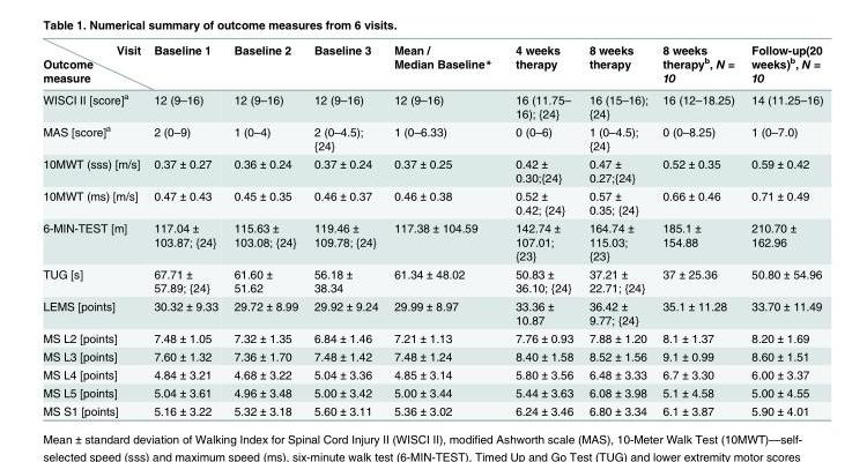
<table><thead><tr><td rowspan="2">Visit Outcome measure</td><td rowspan="2">Baseline 1</td><td rowspan="2">Baseline 2</td><td rowspan="2">Baseline 3</td><td rowspan="2">Mean / Median Baseline*</td><td rowspan="2">4 weeks therapy</td><td rowspan="2">8 weeks therapy</td><td rowspan="2">8 weeks therapy<sup>b</sup>, N = 10</td><td rowspan="2">Follow-up(20 weeks)<sup>b</sup>, N = 10</td></tr><tr></tr></thead><tbody><tr><td>WISCI II [score]<sup>a</sup></td><td>12 (9–16)</td><td>12 (9–16)</td><td>12 (9–16)</td><td>12 (9–16)</td><td>16 (11.75– 16); {24}</td><td>16 (15–16); {24}</td><td>16 (12–18.25)</td><td>14 (11.25–16)</td></tr><tr><td>MAS [score]<sup>a</sup></td><td>2 (0–9)</td><td>1 (0–4)</td><td>2 (0–4.5); {24}</td><td>1 (0–6.33)</td><td>0 (0–6)</td><td>1 (0–4.5); {24}</td><td>0 (0–8.25)</td><td>1 (0–7.0)</td></tr><tr><td>10MWT (sss) [m/s]</td><td>0.37 ± 0.27</td><td>0.36 ± 0.24</td><td>0.37 ± 0.24</td><td>0.37 ± 0.25</td><td>0.42 ± 0.30;{24}</td><td>0.47 ± 0.27;{24}</td><td>0.52 ± 0.35</td><td>0.59 ± 0.42</td></tr><tr><td>10MWT (ms) [m/s]</td><td>0.47 ± 0.43</td><td>0.45 ± 0.35</td><td>0.46 ± 0.37</td><td>0.46 ± 0.38</td><td>0.52 ± 0.42; {24}</td><td>0.57 ± 0.35; {24}</td><td>0.66 ± 0.46</td><td>0.71 ± 0.49</td></tr><tr><td>6-MIN-TEST [m]</td><td>117.04 ± 103.87; {24}</td><td>115.63 ± 103.08; {24}</td><td>119.46 ± 109.78; {24}</td><td>117.38 ± 104.59</td><td>142.74 ± 107.01; {23}</td><td>164.74 ± 115.03; {23}</td><td>185.1 ± 154.88</td><td>210.70 ± 162.96</td></tr><tr><td>TUG [s]</td><td>67.71 ± 57.89; {24}</td><td>61.60 ± 51.62</td><td>56.18 ± 38.34</td><td>61.34 ± 48.02</td><td>50.83 ± 36.10; {24}</td><td>37.21 ± 22.71; {24}</td><td>37 ± 25.36</td><td>50.80 ± 54.96</td></tr><tr><td>LEMS [points]</td><td>30.32 ± 9.33</td><td>29.72 ± 8.99</td><td>29.92 ± 9.24</td><td>29.99 ± 8.97</td><td>33.36 ± 10.87</td><td>36.42 ± 9.77; {24}</td><td>35.1 ± 11.28</td><td>33.70 ± 11.49</td></tr><tr><td>MS L2 [points]</td><td>7.48 ± 1.05</td><td>7.32 ± 1.35</td><td>6.84 ± 1.46</td><td>7.21 ± 1.13</td><td>7.76 ± 0.93</td><td>7.88 ± 1.20</td><td>8.1 ± 1.37</td><td>8.20 ± 1.69</td></tr><tr><td>MS L3 [points]</td><td>7.60 ± 1.32</td><td>7.36 ± 1.70</td><td>7.48 ± 1.42</td><td>7.48 ± 1.24</td><td>8.40 ± 1.58</td><td>8.52 ± 1.56</td><td>9.1 ± 0.99</td><td>8.60 ± 1.51</td></tr><tr><td>MS L4 [points]</td><td>4.84 ± 3.21</td><td>4.68 ± 3.22</td><td>5.04 ± 3.36</td><td>4.85 ± 3.14</td><td>5.80 ± 3.56</td><td>6.48 ± 3.33</td><td>6.7 ± 3.30</td><td>6.00 ± 3.37</td></tr><tr><td>MS L5 [points]</td><td>5.04 ± 3.61</td><td>4.96 ± 3.48</td><td>5.00 ± 3.42</td><td>5.00 ± 3.44</td><td>5.44 ± 3.63</td><td>6.08 ± 3.98</td><td>5.1 ± 4.58</td><td>5.00 ± 4.55</td></tr><tr><td>MS S1 [points]</td><td>5.16 ± 3.22</td><td>5.32 ± 3.18</td><td>5.60 ± 3.11</td><td>5.36 ± 3.02</td><td>6.24 ± 3.46</td><td>6.80 ± 3.34</td><td>6.1 ± 3.87</td><td>5.90 ± 4.01</td></tr></tbody></table>